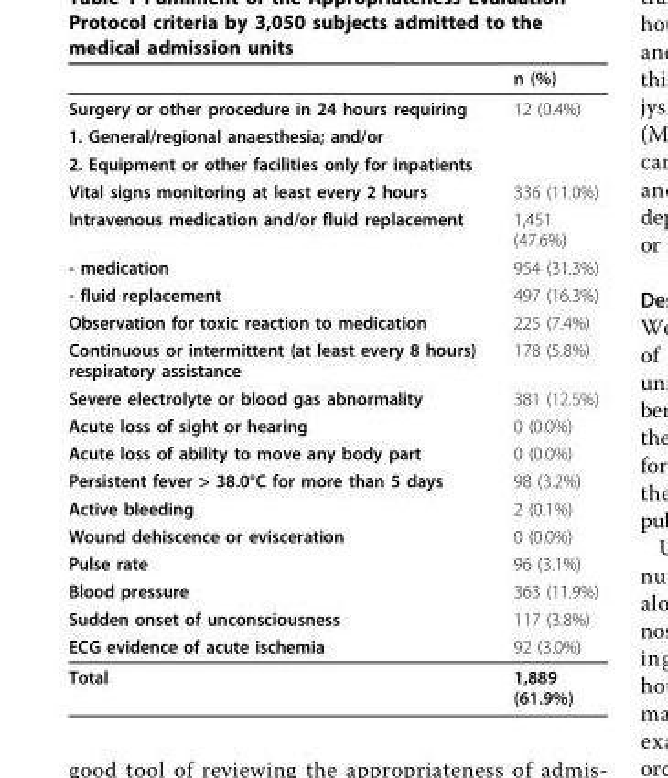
<table><thead><tr><td></td><td>n (%)</td></tr></thead><tbody><tr><td>Surgery or other procedure in 24 hours requiring</td><td>12 (0.4%)</td></tr><tr><td colspan="2">1. General/regional anaesthesia; and/or</td></tr><tr><td colspan="2">2. Equipment or other facilities only for inpatients</td></tr><tr><td>Vital signs monitoring at least every 2 hours</td><td>336 (11.0%)</td></tr><tr><td>Intravenous medication and/or fluid replacement</td><td>1,451 (47.6%)</td></tr><tr><td>- medication</td><td>954 (31.3%)</td></tr><tr><td>- fluid replacement</td><td>497 (16.3%)</td></tr><tr><td>Observation for toxic reaction to medication</td><td>225 (7.4%)</td></tr><tr><td>Continuous or intermittent (at least every 8 hours) respiratory assistance</td><td>178 (5.8%)</td></tr><tr><td>Severe electrolyte or blood gas abnormality</td><td>381 (12.5%)</td></tr><tr><td>Acute loss of sight or hearing</td><td>0 (0.0%)</td></tr><tr><td>Acute loss of ability to move any body part</td><td>0 (0.0%)</td></tr><tr><td>Persistent fever &gt; 38.0°C for more than 5 days</td><td>98 (3.2%)</td></tr><tr><td>Active bleeding</td><td>2 (0.1%)</td></tr><tr><td>Wound dehiscence or evisceration</td><td>0 (0.0%)</td></tr><tr><td>Pulse rate</td><td>96 (3.1%)</td></tr><tr><td>Blood pressure</td><td>363 (11.9%)</td></tr><tr><td>Sudden onset of unconsciousness</td><td>117 (3.8%)</td></tr><tr><td>ECG evidence of acute ischemia</td><td>92 (3.0%)</td></tr><tr><td>Total</td><td>1,889 (61.9%)</td></tr></tbody></table>